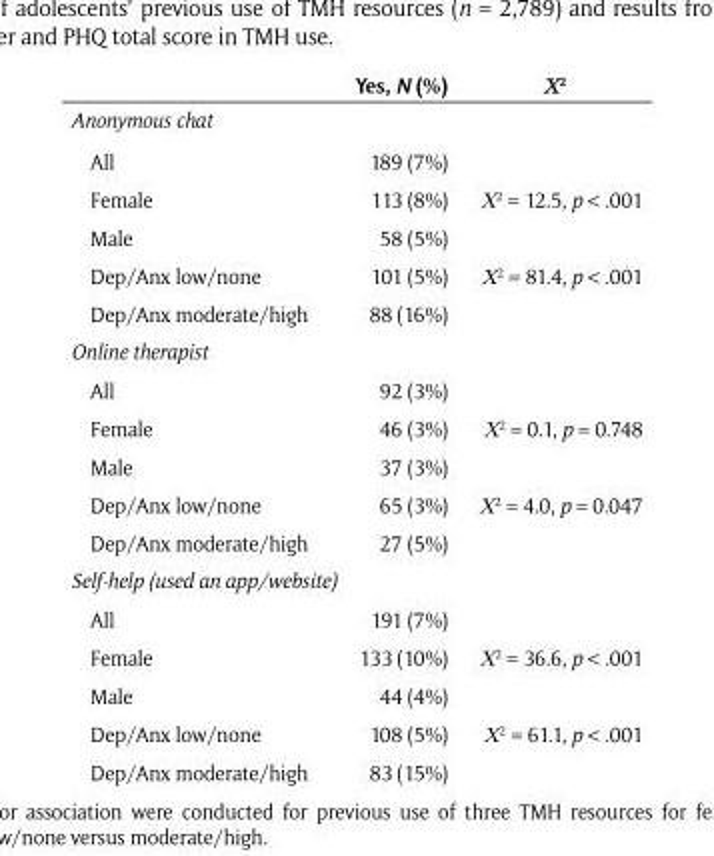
<table><thead><tr><td></td><td>Yes, N (%)</td><td>Χ2</td></tr></thead><tbody><tr><td colspan="3">Anonymous chat</td></tr><tr><td>All</td><td>189 (7%)</td><td></td></tr><tr><td>Female</td><td>113 (8%)</td><td>Χ2 = 12.5, p &lt; .001</td></tr><tr><td>Male</td><td>58 (5%)</td><td></td></tr><tr><td>Dep/Anx low/none</td><td>101 (5%)</td><td>Χ2 = 81.4, p &lt; .001</td></tr><tr><td>Dep/Anx moderate/high</td><td>88 (16%)</td><td></td></tr><tr><td colspan="3">Online therapist</td></tr><tr><td>All</td><td>92 (3%)</td><td></td></tr><tr><td>Female</td><td>46 (3%)</td><td>Χ2 = 0.1, p = 0.748</td></tr><tr><td>Male</td><td>37 (3%)</td><td></td></tr><tr><td>Dep/Anx low/none</td><td>65 (3%)</td><td>Χ2 = 4.0, p = 0.047</td></tr><tr><td>Dep/Anx moderate/high</td><td>27 (5%)</td><td></td></tr><tr><td colspan="3">Self-help (used an app/website)</td></tr><tr><td>All</td><td>191 (7%)</td><td></td></tr><tr><td>Female</td><td>133 (10%)</td><td>Χ2 = 36.6, p &lt; .001</td></tr><tr><td>Male</td><td>44 (4%)</td><td></td></tr><tr><td>Dep/Anx low/none</td><td>108 (5%)</td><td>Χ2 = 61.1, p &lt; .001</td></tr><tr><td>Dep/Anx moderate/high</td><td>83 (15%)</td><td></td></tr></tbody></table>